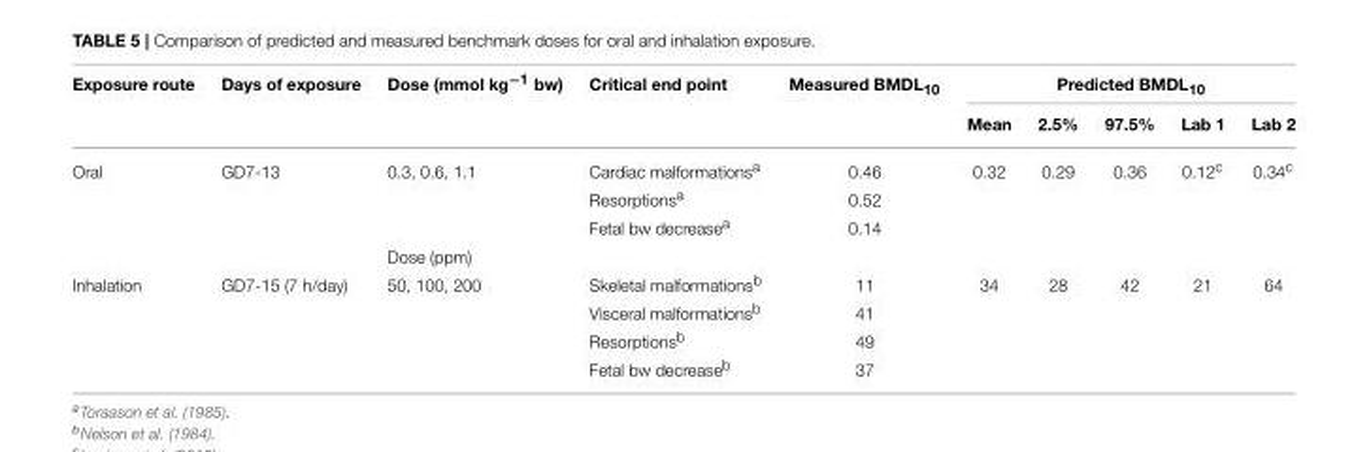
<table><thead><tr><td rowspan="2">Exposure route</td><td rowspan="2">Days of exposure</td><td rowspan="2">Dose (mmol kg<sup>−1</sup> bw)</td><td rowspan="2">Critical end point</td><td rowspan="2">Measured BMDL<sub>10</sub></td><td colspan="5">Predicted BMDL<sub>10</sub></td></tr><tr><td>Mean</td><td>2.5%</td><td>97.5%</td><td>Lab 1</td><td>Lab 2</td></tr></thead><tbody><tr><td rowspan="4">Oral</td><td>GD7-13</td><td>0.3, 0.6, 1.1</td><td>Cardiac malformations<sup>a</sup></td><td>0.46</td><td>0.32</td><td>0.29</td><td>0.36</td><td>0.12<sup>c</sup></td><td>0.34<sup>c</sup></td></tr><tr><td></td><td></td><td>Resorptions<sup>a</sup></td><td>0.52</td><td></td><td></td><td></td><td></td><td></td></tr><tr><td></td><td></td><td>Fetal bw decrease<sup>a</sup></td><td>0.14</td><td></td><td></td><td></td><td></td><td></td></tr><tr><td></td><td>Dose (ppm)</td><td></td><td></td><td></td><td></td><td></td><td></td><td></td></tr><tr><td rowspan="4">Inhalation</td><td>GD7-15 (7 h/day)</td><td>50, 100, 200</td><td>Skeletal malformations<sup>b</sup></td><td>11</td><td>34</td><td>28</td><td>42</td><td>21</td><td>64</td></tr><tr><td></td><td></td><td>Visceral malformations<sup>b</sup></td><td>41</td><td></td><td></td><td></td><td></td><td></td></tr><tr><td></td><td></td><td>Resorptions<sup>b</sup></td><td>49</td><td></td><td></td><td></td><td></td><td></td></tr><tr><td></td><td></td><td>Fetal bw decrease<sup>b</sup></td><td>37</td><td></td><td></td><td></td><td></td><td></td></tr></tbody></table>